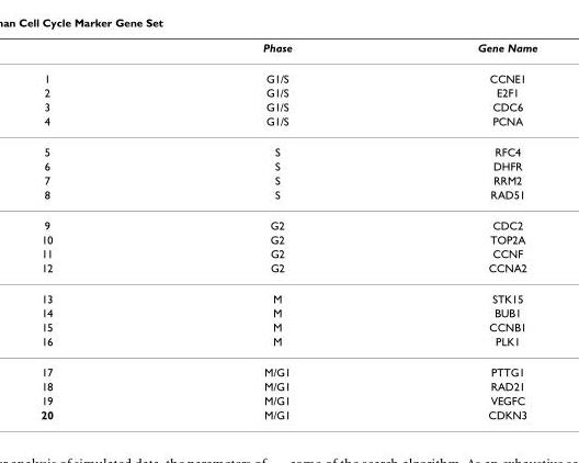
<table><thead><tr><td></td><td>Phase</td><td>Gene Name</td></tr></thead><tbody><tr><td>1</td><td>G1/S</td><td>CCNE1</td></tr><tr><td>2</td><td>G1/S</td><td>E2F1</td></tr><tr><td>3</td><td>G1/S</td><td>CDC6</td></tr><tr><td>4</td><td>G1/S</td><td>PCNA</td></tr><tr><td>5</td><td>S</td><td>RFC4</td></tr><tr><td>6</td><td>S</td><td>DHFR</td></tr><tr><td>7</td><td>S</td><td>RRM2</td></tr><tr><td>8</td><td>S</td><td>RAD51</td></tr><tr><td>9</td><td>G2</td><td>CDC2</td></tr><tr><td>10</td><td>G2</td><td>TOP2A</td></tr><tr><td>11</td><td>G2</td><td>CCNF</td></tr><tr><td>12</td><td>G2</td><td>CCNA2</td></tr><tr><td>13</td><td>M</td><td>STK15</td></tr><tr><td>14</td><td>M</td><td>BUB1</td></tr><tr><td>15</td><td>M</td><td>CCNB1</td></tr><tr><td>16</td><td>M</td><td>PLK1</td></tr><tr><td>17</td><td>M/G1</td><td>PTTG1</td></tr><tr><td>18</td><td>M/G1</td><td>RAD21</td></tr><tr><td>19</td><td>M/G1</td><td>VEGFC</td></tr><tr><td>20</td><td>M/G1</td><td>CDKN3</td></tr></tbody></table>